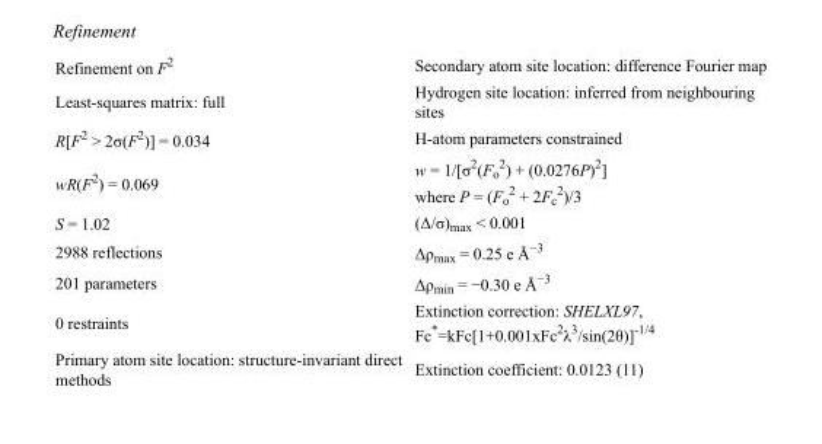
<table><tbody><tr><td>Refinement on F<sup>2</sup></td><td>Secondary atom site location: difference Fourier map</td></tr><tr><td>Least-squares matrix: full</td><td>Hydrogen site location: inferred from neighbouring sites</td></tr><tr><td>R[F<sup>2</sup> &gt; 2σ(F<sup>2</sup>)] = 0.034</td><td>H-atom parameters constrained</td></tr><tr><td>wR(F<sup>2</sup>) = 0.069</td><td>w = 1/[σ<sup>2</sup>(F<sub>o</sub> <sup>2</sup>) + (0.0276P)<sup>2</sup>] where P = (F<sub>o</sub> <sup>2</sup> + 2F<sub>c</sub> <sup>2</sup>)/3</td></tr><tr><td>S = 1.02</td><td>(Δ/σ)<sub>max</sub> &lt; 0.001</td></tr><tr><td>2988 reflections</td><td>Δρ<sub>max</sub> = 0.25 e Å<sup>−3</sup></td></tr><tr><td>201 parameters</td><td>Δρ<sub>min</sub> = −0.30 e Å<sup>−3</sup></td></tr><tr><td>0 restraints</td><td>Extinction correction: SHELXL97, Fc*=kFc[1+0.001xFc<sup>2</sup>λ<sup>3</sup>/sin(2θ)]<sup>-1/4</sup></td></tr><tr><td>Primary atom site location: structure-invariant direct methods</td><td>Extinction coefficient: 0.0123 (11)</td></tr></tbody></table>